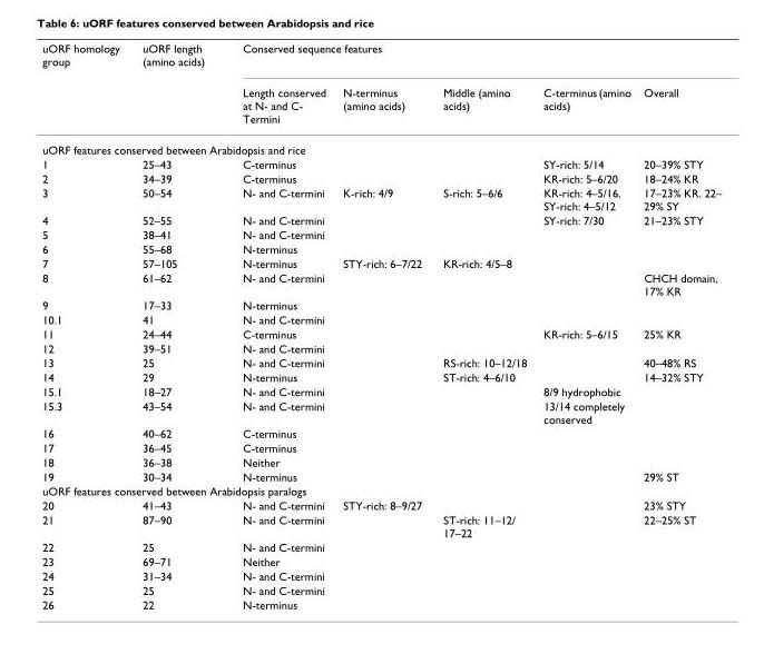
<table><thead><tr><td rowspan="2">uORF homology group</td><td rowspan="2">uORF length (amino acids)</td><td colspan="5">Conserved sequence features</td></tr><tr><td>Length conserved at N- and C- Termini</td><td>N-terminus (amino acids)</td><td>Middle (amino acids)</td><td>C-terminus (amino acids)</td><td>Overall</td></tr></thead><tbody><tr><td colspan="7">uORF features conserved between Arabidopsis and rice</td></tr><tr><td>1</td><td>25–43</td><td>C-terminus</td><td></td><td></td><td>SY-rich: 5/14</td><td>20–39% STY</td></tr><tr><td>2</td><td>34–39</td><td>C-terminus</td><td></td><td></td><td>KR-rich: 5–6/20</td><td>18–24% KR</td></tr><tr><td>3</td><td>50–54</td><td>N- and C-termini</td><td>K-rich: 4/9</td><td>S-rich: 5–6/6</td><td>KR-rich: 4–5/16, SY-rich: 4–5/12</td><td>17–23% KR. 22– 29% SY</td></tr><tr><td>4</td><td>52–55</td><td>N- and C-termini</td><td></td><td></td><td>SY-rich: 7/30</td><td>21–23% STY</td></tr><tr><td>5</td><td>38–41</td><td>N- and C-termini</td><td></td><td></td><td></td><td></td></tr><tr><td>6</td><td>55–68</td><td>N-terminus</td><td></td><td></td><td></td><td></td></tr><tr><td>7</td><td>57–105</td><td>N-terminus</td><td>STY-rich: 6–7/22</td><td>KR-rich: 4/5–8</td><td></td><td></td></tr><tr><td>8</td><td>61–62</td><td>N- and C-termini</td><td></td><td></td><td></td><td>CHCH domain, 17% KR</td></tr><tr><td>9</td><td>17–33</td><td>N-terminus</td><td></td><td></td><td></td><td></td></tr><tr><td>10.1</td><td>41</td><td>N- and C-termini</td><td></td><td></td><td></td><td></td></tr><tr><td>11</td><td>24–44</td><td>C-terminus</td><td></td><td></td><td>KR-rich: 5–6/15</td><td>25% KR</td></tr><tr><td>12</td><td>39–51</td><td>N- and C-termini</td><td></td><td></td><td></td><td></td></tr><tr><td>13</td><td>25</td><td>N- and C-termini</td><td></td><td>RS-rich: 10–12/18</td><td></td><td>40–48% RS</td></tr><tr><td>14</td><td>29</td><td>N-terminus</td><td></td><td>ST-rich: 4–6/10</td><td></td><td>14–32% STY</td></tr><tr><td>15.1</td><td>18–27</td><td>N- and C-termini</td><td></td><td></td><td>8/9 hydrophobic</td><td></td></tr><tr><td>15.3</td><td>43–54</td><td>N- and C-termini</td><td></td><td></td><td>13/14 completely conserved</td><td></td></tr><tr><td>16</td><td>40–62</td><td>C-terminus</td><td></td><td></td><td></td><td></td></tr><tr><td>17</td><td>36–45</td><td>C-terminus</td><td></td><td></td><td></td><td></td></tr><tr><td>18</td><td>36–38</td><td>Neither</td><td></td><td></td><td></td><td></td></tr><tr><td>19</td><td>30–34</td><td>N-terminus</td><td></td><td></td><td></td><td>29% ST</td></tr><tr><td colspan="7">uORF features conserved between Arabidopsis paralogs</td></tr><tr><td>20</td><td>41–43</td><td>N- and C-termini</td><td>STY-rich: 8–9/27</td><td></td><td></td><td>23% STY</td></tr><tr><td>21</td><td>87–90</td><td>N- and C-termini</td><td></td><td>ST-rich: 11–12/ 17–22</td><td></td><td>22–25% ST</td></tr><tr><td>22</td><td>25</td><td>N- and C-termini</td><td></td><td></td><td></td><td></td></tr><tr><td>23</td><td>69–71</td><td>Neither</td><td></td><td></td><td></td><td></td></tr><tr><td>24</td><td>31–34</td><td>N- and C-termini</td><td></td><td></td><td></td><td></td></tr><tr><td>25</td><td>25</td><td>N- and C-termini</td><td></td><td></td><td></td><td></td></tr><tr><td>26</td><td>22</td><td>N-terminus</td><td></td><td></td><td></td><td></td></tr></tbody></table>